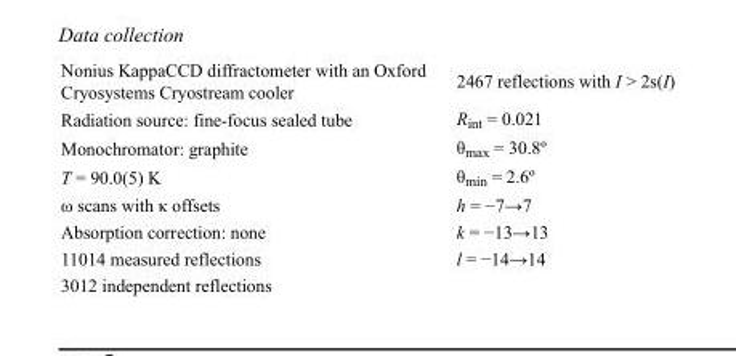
<table><tbody><tr><td>Nonius KappaCCD diffractometer with an Oxford Cryosystems Cryostream cooler</td><td>2467 reflections with I &gt; 2s(I)</td></tr><tr><td>Radiation source: fine-focus sealed tube</td><td>R<sub>int</sub> = 0.021</td></tr><tr><td>Monochromator: graphite</td><td>θ<sub>max</sub> = 30.8º</td></tr><tr><td>T = 90.0(5) K</td><td>θ<sub>min</sub> = 2.6º</td></tr><tr><td>ω scans with κ offsets</td><td>h = −7→7</td></tr><tr><td>Absorption correction: none</td><td>k = −13→13</td></tr><tr><td>11014 measured reflections</td><td>l = −14→14</td></tr><tr><td>3012 independent reflections</td><td></td></tr></tbody></table>